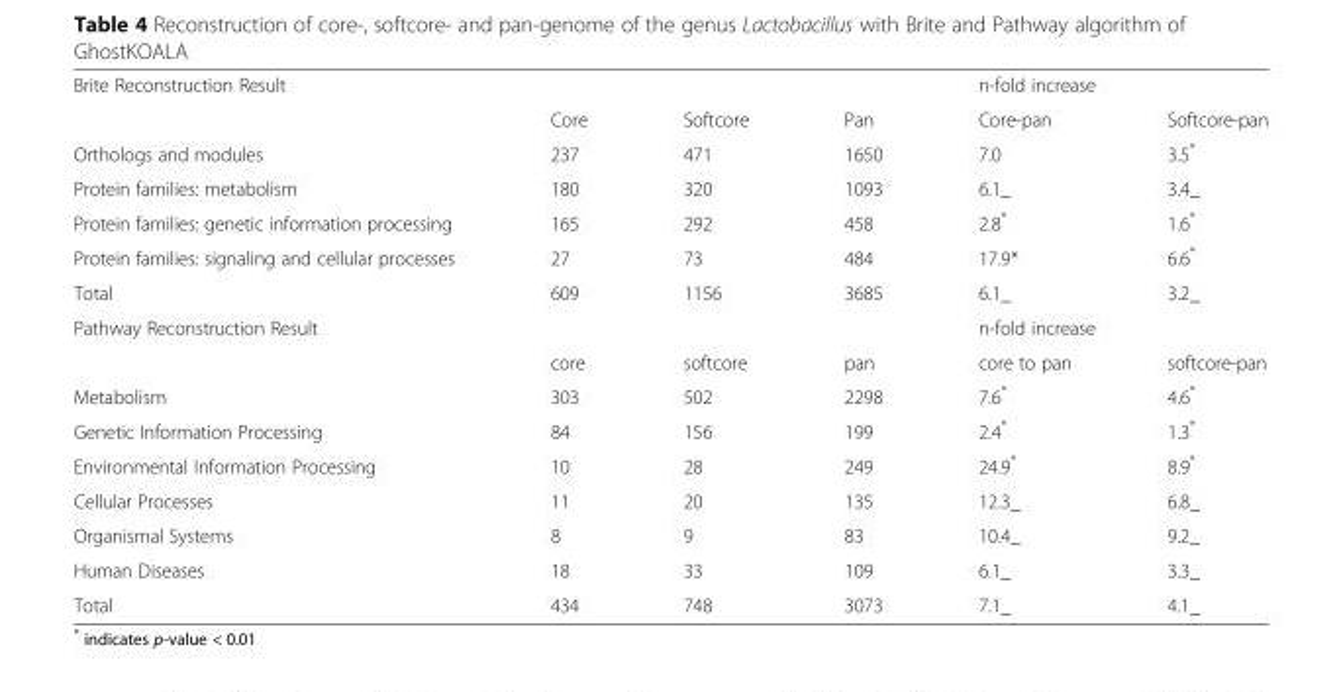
<table><tbody><tr><td rowspan="2">Brite Reconstruction Result</td><td></td><td></td><td></td><td colspan="2">n-fold increase</td></tr><tr><td>Core</td><td>Softcore</td><td>Pan</td><td>Core-pan</td><td>Softcore-pan</td></tr><tr><td>Orthologs and modules</td><td>237</td><td>471</td><td>1650</td><td>7.0</td><td>3.5*</td></tr><tr><td>Protein families: metabolism</td><td>180</td><td>320</td><td>1093</td><td>6.1_</td><td>3.4_</td></tr><tr><td>Protein families: genetic information processing</td><td>165</td><td>292</td><td>458</td><td>2.8*</td><td>1.6*</td></tr><tr><td>Protein families: signaling and cellular processes</td><td>27</td><td>73</td><td>484</td><td>17.9*</td><td>6.6*</td></tr><tr><td>Total</td><td>609</td><td>1156</td><td>3685</td><td>6.1_</td><td>3.2_</td></tr><tr><td rowspan="2">Pathway Reconstruction Result</td><td></td><td></td><td></td><td colspan="2">n-fold increase</td></tr><tr><td>core</td><td>softcore</td><td>pan</td><td>core to pan</td><td>softcore-pan</td></tr><tr><td>Metabolism</td><td>303</td><td>502</td><td>2298</td><td>7.6*</td><td>4.6*</td></tr><tr><td>Genetic Information Processing</td><td>84</td><td>156</td><td>199</td><td>2.4*</td><td>1.3*</td></tr><tr><td>Environmental Information Processing</td><td>10</td><td>28</td><td>249</td><td>24.9*</td><td>8.9*</td></tr><tr><td>Cellular Processes</td><td>11</td><td>20</td><td>135</td><td>12.3_</td><td>6.8_</td></tr><tr><td>Organismal Systems</td><td>8</td><td>9</td><td>83</td><td>10.4_</td><td>9.2_</td></tr><tr><td>Human Diseases</td><td>18</td><td>33</td><td>109</td><td>6.1_</td><td>3.3_</td></tr><tr><td>Total</td><td>434</td><td>748</td><td>3073</td><td>7.1_</td><td>4.1_</td></tr></tbody></table>